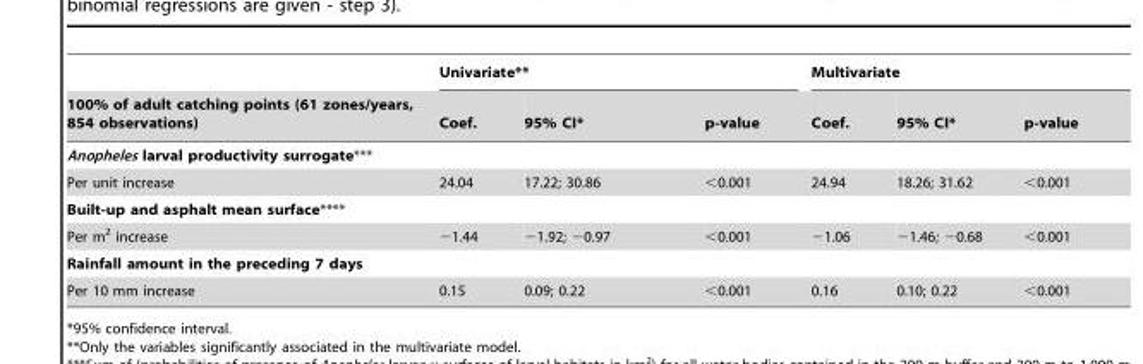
<table><thead><tr><td rowspan="2">100% of adult catching points (61 zones/years, 854 observations)</td><td colspan="3">Univariate**</td><td colspan="3">Multivariate</td></tr><tr><td>Coef.</td><td>95% CI*</td><td>p-value</td><td>Coef.</td><td>95% CI*</td><td>p-value</td></tr></thead><tbody><tr><td colspan="7">Anopheles larval productivity surrogate***</td></tr><tr><td>Per unit increase</td><td>24.04</td><td>17.22; 30.86</td><td>&lt;0.001</td><td>24.94</td><td>18.26; 31.62</td><td>&lt;0.001</td></tr><tr><td colspan="7">Built-up and asphalt mean surface****</td></tr><tr><td>Per m<sup>2</sup> increase</td><td>−1.44</td><td>−1.92; −0.97</td><td>&lt;0.001</td><td>−1.06</td><td>−1.46; −0.68</td><td>&lt;0.001</td></tr><tr><td colspan="7">Rainfall amount in the preceding 7 days</td></tr><tr><td>Per 10 mm increase</td><td>0.15</td><td>0.09; 0.22</td><td>&lt;0.001</td><td>0.16</td><td>0.10; 0.22</td><td>&lt;0.001</td></tr></tbody></table>